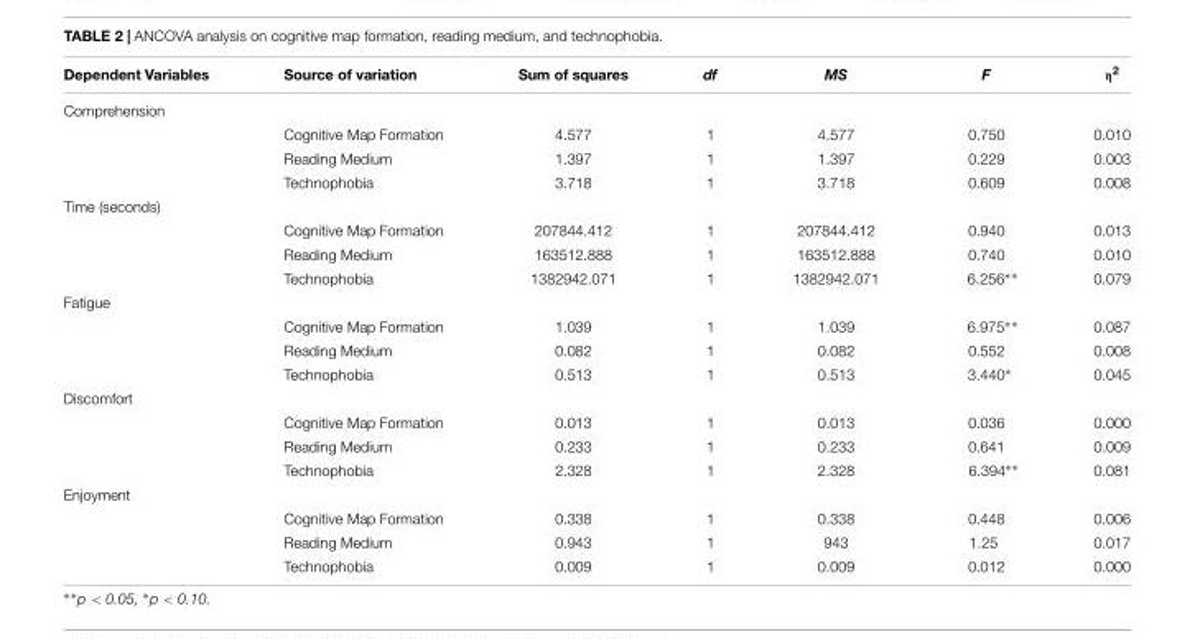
<table><thead><tr><td>Dependent Variables</td><td>Source of variation</td><td>Sum of squares</td><td>df</td><td>MS</td><td>F</td><td>η<sup>2</sup></td></tr></thead><tbody><tr><td colspan="7">Comprehension</td></tr><tr><td></td><td>Cognitive Map Formation</td><td>4.577</td><td>1</td><td>4.577</td><td>0.750</td><td>0.010</td></tr><tr><td></td><td>Reading Medium</td><td>1.397</td><td>1</td><td>1.397</td><td>0.229</td><td>0.003</td></tr><tr><td></td><td>Technophobia</td><td>3.718</td><td>1</td><td>3.718</td><td>0.609</td><td>0.008</td></tr><tr><td colspan="7">Time (seconds)</td></tr><tr><td></td><td>Cognitive Map Formation</td><td>207844.412</td><td>1</td><td>207844.412</td><td>0.940</td><td>0.013</td></tr><tr><td></td><td>Reading Medium</td><td>163512.888</td><td>1</td><td>163512.888</td><td>0.740</td><td>0.010</td></tr><tr><td></td><td>Technophobia</td><td>1382942.071</td><td>1</td><td>1382942.071</td><td>6.256∗∗</td><td>0.079</td></tr><tr><td colspan="7">Fatigue</td></tr><tr><td></td><td>Cognitive Map Formation</td><td>1.039</td><td>1</td><td>1.039</td><td>6.975∗∗</td><td>0.087</td></tr><tr><td></td><td>Reading Medium</td><td>0.082</td><td>1</td><td>0.082</td><td>0.552</td><td>0.008</td></tr><tr><td></td><td>Technophobia</td><td>0.513</td><td>1</td><td>0.513</td><td>3.440∗</td><td>0.045</td></tr><tr><td colspan="7">Discomfort</td></tr><tr><td></td><td>Cognitive Map Formation</td><td>0.013</td><td>1</td><td>0.013</td><td>0.036</td><td>0.000</td></tr><tr><td></td><td>Reading Medium</td><td>0.233</td><td>1</td><td>0.233</td><td>0.641</td><td>0.009</td></tr><tr><td></td><td>Technophobia</td><td>2.328</td><td>1</td><td>2.328</td><td>6.394∗∗</td><td>0.081</td></tr><tr><td colspan="7">Enjoyment</td></tr><tr><td></td><td>Cognitive Map Formation</td><td>0.338</td><td>1</td><td>0.338</td><td>0.448</td><td>0.006</td></tr><tr><td></td><td>Reading Medium</td><td>0.943</td><td>1</td><td>943</td><td>1.25</td><td>0.017</td></tr><tr><td></td><td>Technophobia</td><td>0.009</td><td>1</td><td>0.009</td><td>0.012</td><td>0.000</td></tr></tbody></table>